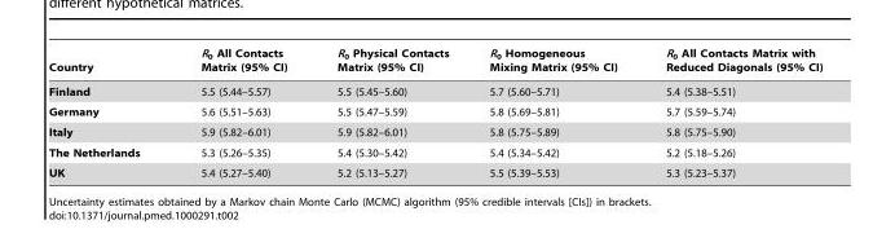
<table><thead><tr><td>Country</td><td>R<sub>0</sub> All Contacts Matrix (95% CI)</td><td>R<sub>0</sub> Physical Contacts Matrix (95% CI)</td><td>R<sub>0</sub> Homogeneous Mixing Matrix (95% CI)</td><td>R<sub>0</sub> All Contacts Matrix with Reduced Diagonals (95% CI)</td></tr></thead><tbody><tr><td>Finland</td><td>5.5 (5.44–5.57)</td><td>5.5 (5.45–5.60)</td><td>5.7 (5.60–5.71)</td><td>5.4 (5.38–5.51)</td></tr><tr><td>Germany</td><td>5.6 (5.51–5.63)</td><td>5.5 (5.47–5.59)</td><td>5.8 (5.69–5.81)</td><td>5.7 (5.59–5.74)</td></tr><tr><td>Italy</td><td>5.9 (5.82–6.01)</td><td>5.9 (5.82–6.01)</td><td>5.8 (5.75–5.89)</td><td>5.8 (5.75–5.90)</td></tr><tr><td>The Netherlands</td><td>5.3 (5.26–5.35)</td><td>5.4 (5.30–5.42)</td><td>5.4 (5.34–5.42)</td><td>5.2 (5.18–5.26)</td></tr><tr><td>UK</td><td>5.4 (5.27–5.40)</td><td>5.2 (5.13–5.27)</td><td>5.5 (5.39–5.53)</td><td>5.3 (5.23–5.37)</td></tr></tbody></table>